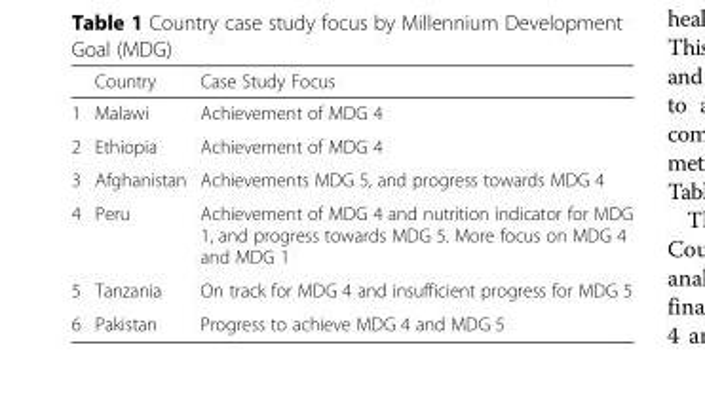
<table><thead><tr><td></td><td>Country</td><td>Case Study Focus</td></tr></thead><tbody><tr><td>1</td><td>Malawi</td><td>Achievement of MDG 4</td></tr><tr><td>2</td><td>Ethiopia</td><td>Achievement of MDG 4</td></tr><tr><td>3</td><td>Afghanistan</td><td>Achievements MDG 5, and progress towards MDG 4</td></tr><tr><td>4</td><td>Peru</td><td>Achievement of MDG 4 and nutrition indicator for MDG 1, and progress towards MDG 5. More focus on MDG 4 and MDG 1</td></tr><tr><td>5</td><td>Tanzania</td><td>On track for MDG 4 and insufficient progress for MDG 5</td></tr><tr><td>6</td><td>Pakistan</td><td>Progress to achieve MDG 4 and MDG 5</td></tr></tbody></table>